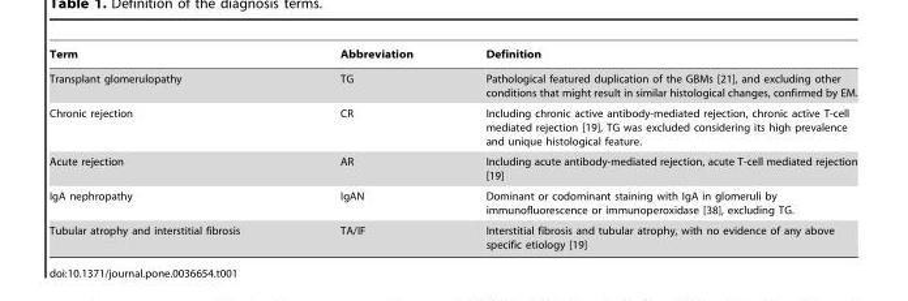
<table><thead><tr><td>Term</td><td>Abbreviation</td><td>Definition</td></tr></thead><tbody><tr><td>Transplant glomerulopathy</td><td>TG</td><td>Pathological featured duplication of the GBMs [21], and excluding other conditions that might result in similar histological changes, confirmed by EM.</td></tr><tr><td>Chronic rejection</td><td>CR</td><td>Including chronic active antibody-mediated rejection, chronic active T-cell mediated rejection [19], TG was excluded considering its high prevalence and unique histological feature.</td></tr><tr><td>Acute rejection</td><td>AR</td><td>Including acute antibody-mediated rejection, acute T-cell mediated rejection [19]</td></tr><tr><td>IgA nephropathy</td><td>IgAN</td><td>Dominant or codominant staining with IgA in glomeruli by immunofluorescence or immunoperoxidase [38], excluding TG.</td></tr><tr><td>Tubular atrophy and interstitial fibrosis</td><td>TA/IF</td><td>Interstitial fibrosis and tubular atrophy, with no evidence of any above specific etiology [19]</td></tr></tbody></table>